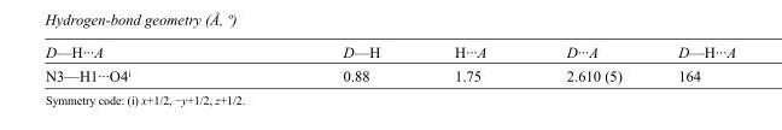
<table><tbody><tr><td>D—H···A</td><td>D—H</td><td>H···A</td><td>D···A</td><td>D—H···A</td></tr><tr><td>N3—H1···O4<sup>i</sup></td><td>0.88</td><td>1.75</td><td>2.610 (5)</td><td>164</td></tr></tbody></table>